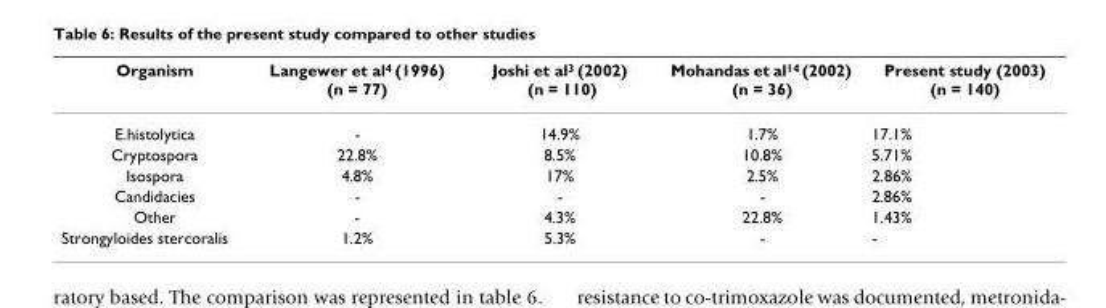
<table><thead><tr><td>Organism</td><td>Langewer et al<sup>4</sup> (1996) (n = 77)</td><td>Joshi et al<sup>3</sup> (2002) (n = 110)</td><td>Mohandas et al<sup>14</sup> (2002) (n = 36)</td><td>Present study (2003) (n = 140)</td></tr></thead><tbody><tr><td>E.histolytica</td><td>-</td><td>14.9%</td><td>1.7%</td><td>17.1%</td></tr><tr><td>Cryptospora</td><td>22.8%</td><td>8.5%</td><td>10.8%</td><td>5.71%</td></tr><tr><td>Isospora</td><td>4.8%</td><td>17%</td><td>2.5%</td><td>2.86%</td></tr><tr><td>Candidacies</td><td>-</td><td>-</td><td>-</td><td>2.86%</td></tr><tr><td>Other</td><td>-</td><td>4.3%</td><td>22.8%</td><td>1.43%</td></tr><tr><td>Strongyloides stercoralis</td><td>1.2%</td><td>5.3%</td><td>-</td><td>-</td></tr></tbody></table>